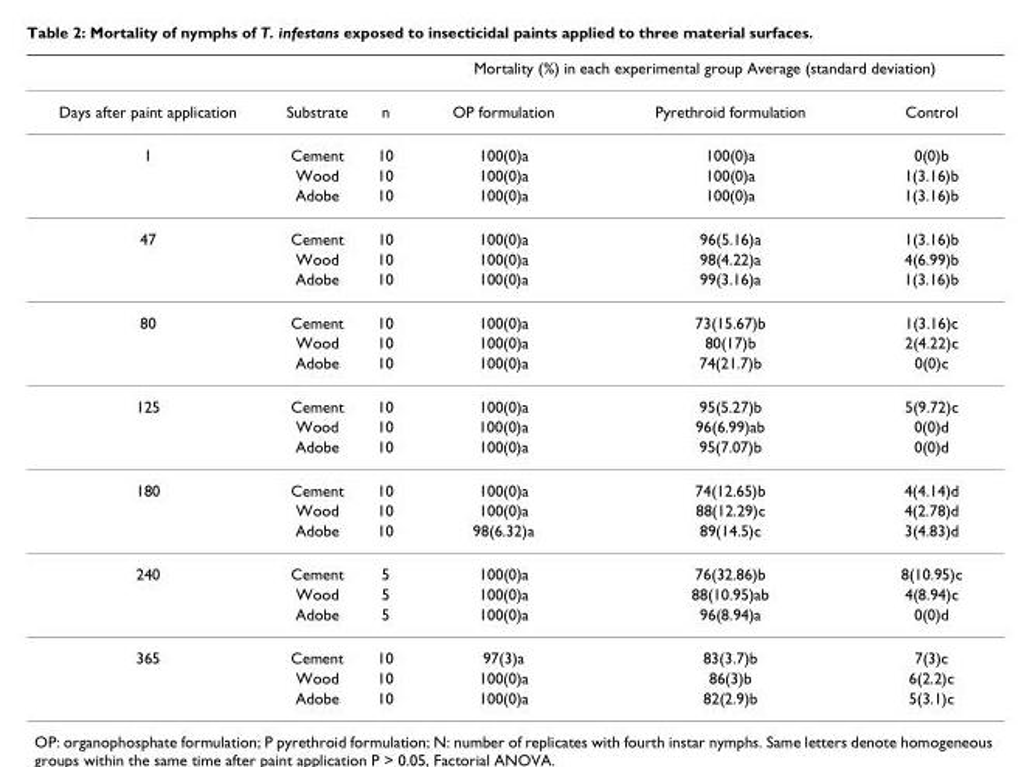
<table><thead><tr><td rowspan="2">Days after paint application</td><td rowspan="2">Substrate</td><td rowspan="2">n</td><td colspan="3">Mortality (%) in each experimental group Average (standard deviation)</td></tr><tr><td>OP formulation</td><td>Pyrethroid formulation</td><td>Control</td></tr></thead><tbody><tr><td rowspan="3">1</td><td>Cement</td><td>10</td><td>100(0)a</td><td>100(0)a</td><td>0(0)b</td></tr><tr><td>Wood</td><td>10</td><td>100(0)a</td><td>100(0)a</td><td>1(3.16)b</td></tr><tr><td>Adobe</td><td>10</td><td>100(0)a</td><td>100(0)a</td><td>1(3.16)b</td></tr><tr><td rowspan="3">47</td><td>Cement</td><td>10</td><td>100(0)a</td><td>96(5.16)a</td><td>1(3.16)b</td></tr><tr><td>Wood</td><td>10</td><td>100(0)a</td><td>98(4.22)a</td><td>4(6.99)b</td></tr><tr><td>Adobe</td><td>10</td><td>100(0)a</td><td>99(3.16)a</td><td>1(3.16)b</td></tr><tr><td rowspan="3">80</td><td>Cement</td><td>10</td><td>100(0)a</td><td>73(15.67)b</td><td>1(3.16)c</td></tr><tr><td>Wood</td><td>10</td><td>100(0)a</td><td>80(17)b</td><td>2(4.22)c</td></tr><tr><td>Adobe</td><td>10</td><td>100(0)a</td><td>74(21.7)b</td><td>0(0)c</td></tr><tr><td rowspan="3">125</td><td>Cement</td><td>10</td><td>100(0)a</td><td>95(5.27)b</td><td>5(9.72)c</td></tr><tr><td>Wood</td><td>10</td><td>100(0)a</td><td>96(6.99)ab</td><td>0(0)d</td></tr><tr><td>Adobe</td><td>10</td><td>100(0)a</td><td>95(7.07)b</td><td>0(0)d</td></tr><tr><td rowspan="3">180</td><td>Cement</td><td>10</td><td>100(0)a</td><td>74(12.65)b</td><td>4(4.14)d</td></tr><tr><td>Wood</td><td>10</td><td>100(0)a</td><td>88(12.29)c</td><td>4(2.78)d</td></tr><tr><td>Adobe</td><td>10</td><td>98(6.32)a</td><td>89(14.5)c</td><td>3(4.83)d</td></tr><tr><td rowspan="3">240</td><td>Cement</td><td>5</td><td>100(0)a</td><td>76(32.86)b</td><td>8(10.95)c</td></tr><tr><td>Wood</td><td>5</td><td>100(0)a</td><td>88(10.95)ab</td><td>4(8.94)c</td></tr><tr><td>Adobe</td><td>5</td><td>100(0)a</td><td>96(8.94)a</td><td>0(0)d</td></tr><tr><td rowspan="3">365</td><td>Cement</td><td>10</td><td>97(3)a</td><td>83(3.7)b</td><td>7(3)c</td></tr><tr><td>Wood</td><td>10</td><td>100(0)a</td><td>86(3)b</td><td>6(2.2)c</td></tr><tr><td>Adobe</td><td>10</td><td>100(0)a</td><td>82(2.9)b</td><td>5(3.1)c</td></tr></tbody></table>